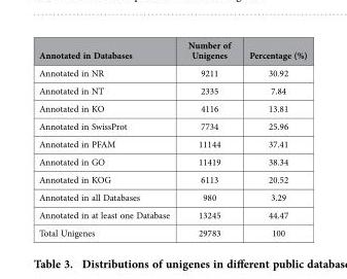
<table><thead><tr><td>Annotated in Databases</td><td>Number of Unigenes</td><td>Percentage (%)</td></tr></thead><tbody><tr><td>Annotated in NR</td><td>9211</td><td>30.92</td></tr><tr><td>Annotated in NT</td><td>2335</td><td>7.84</td></tr><tr><td>Annotated in KO</td><td>4116</td><td>13.81</td></tr><tr><td>Annotated in SwissProt</td><td>7734</td><td>25.96</td></tr><tr><td>Annotated in PFAM</td><td>11144</td><td>37.41</td></tr><tr><td>Annotated in GO</td><td>11419</td><td>38.34</td></tr><tr><td>Annotated in KOG</td><td>6113</td><td>20.52</td></tr><tr><td>Annotated in all Databases</td><td>980</td><td>3.29</td></tr><tr><td>Annotated in at least one Database</td><td>13245</td><td>44.47</td></tr><tr><td>Total Unigenes</td><td>29783</td><td>100</td></tr></tbody></table>